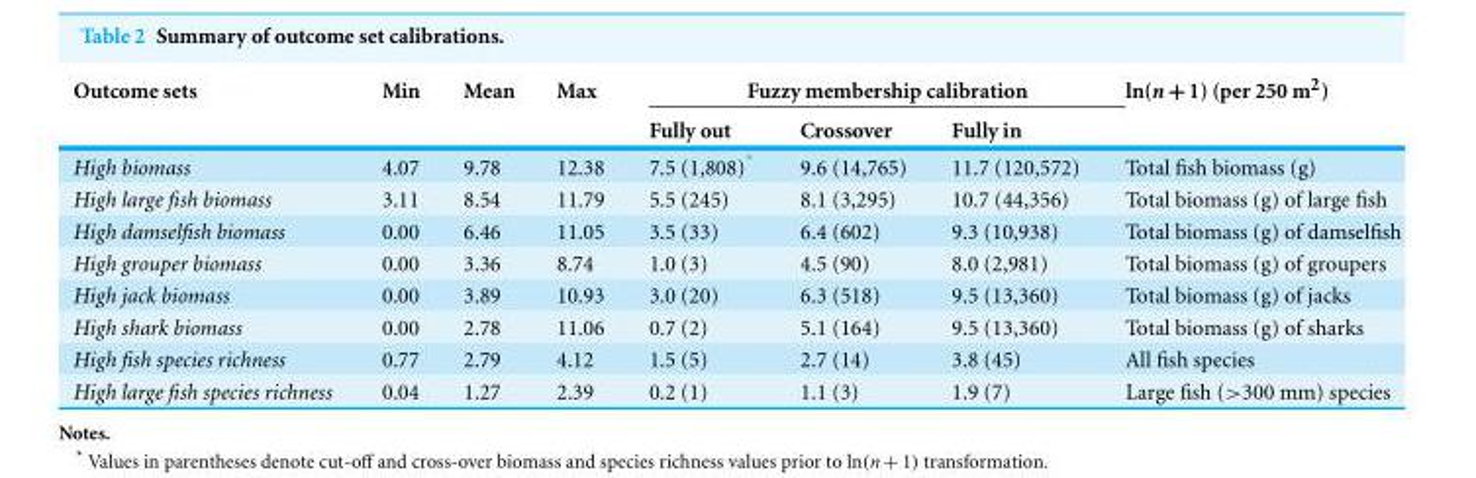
<table><thead><tr><td rowspan="2">Outcome sets</td><td rowspan="2">Min</td><td rowspan="2">Mean</td><td rowspan="2">Max</td><td colspan="3">Fuzzy membership calibration</td><td rowspan="2">ln(n + 1) (per 250 m<sup>2</sup>)</td></tr><tr><td>Fully out</td><td>Crossover</td><td>Fully in</td></tr></thead><tbody><tr><td>High biomass</td><td>4.07</td><td>9.78</td><td>12.38</td><td>7.5 (1,808)*</td><td>9.6 (14,765)</td><td>11.7 (120,572)</td><td>Total fish biomass (g)</td></tr><tr><td>High large fish biomass</td><td>3.11</td><td>8.54</td><td>11.79</td><td>5.5 (245)</td><td>8.1 (3,295)</td><td>10.7 (44,356)</td><td>Total biomass (g) of large fish</td></tr><tr><td>High damselfish biomass</td><td>0.00</td><td>6.46</td><td>11.05</td><td>3.5 (33)</td><td>6.4 (602)</td><td>9.3 (10,938)</td><td>Total biomass (g) of damselfish</td></tr><tr><td>High grouper biomass</td><td>0.00</td><td>3.36</td><td>8.74</td><td>1.0 (3)</td><td>4.5 (90)</td><td>8.0 (2,981)</td><td>Total biomass (g) of groupers</td></tr><tr><td>High jack biomass</td><td>0.00</td><td>3.89</td><td>10.93</td><td>3.0 (20)</td><td>6.3 (518)</td><td>9.5 (13,360)</td><td>Total biomass (g) of jacks</td></tr><tr><td>High shark biomass</td><td>0.00</td><td>2.78</td><td>11.06</td><td>0.7 (2)</td><td>5.1 (164)</td><td>9.5 (13,360)</td><td>Total biomass (g) of sharks</td></tr><tr><td>High fish species richness</td><td>0.77</td><td>2.79</td><td>4.12</td><td>1.5 (5)</td><td>2.7 (14)</td><td>3.8 (45)</td><td>All fish species</td></tr><tr><td>High large fish species richness</td><td>0.04</td><td>1.27</td><td>2.39</td><td>0.2 (1)</td><td>1.1 (3)</td><td>1.9 (7)</td><td>Large fish (&gt;300 mm) species</td></tr></tbody></table>